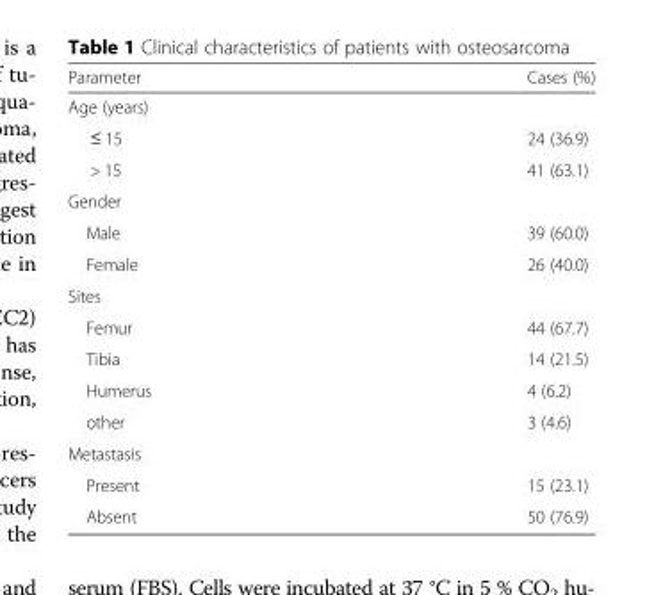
<table><thead><tr><td>Parameter</td><td>Cases (%)</td></tr></thead><tbody><tr><td colspan="2">Age (years)</td></tr><tr><td>≤ 15</td><td>24 (36.9)</td></tr><tr><td>&gt; 15</td><td>41 (63.1)</td></tr><tr><td colspan="2">Gender</td></tr><tr><td>Male</td><td>39 (60.0)</td></tr><tr><td>Female</td><td>26 (40.0)</td></tr><tr><td colspan="2">Sites</td></tr><tr><td>Femur</td><td>44 (67.7)</td></tr><tr><td>Tibia</td><td>14 (21.5)</td></tr><tr><td>Humerus</td><td>4 (6.2)</td></tr><tr><td>other</td><td>3 (4.6)</td></tr><tr><td colspan="2">Metastasis</td></tr><tr><td>Present</td><td>15 (23.1)</td></tr><tr><td>Absent</td><td>50 (76.9)</td></tr></tbody></table>